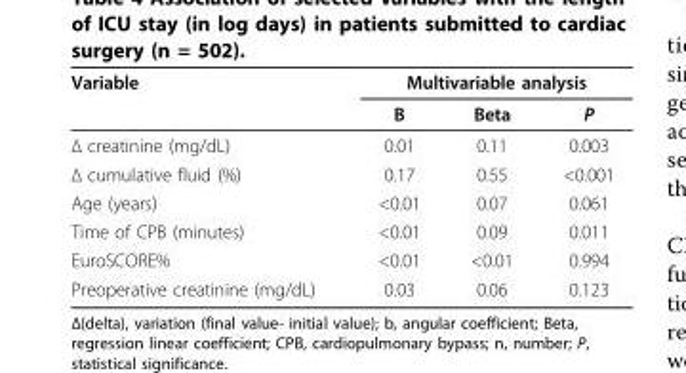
<table><thead><tr><td rowspan="2">Variable</td><td colspan="3">Multivariable analysis</td></tr><tr><td>B</td><td>Beta</td><td>P</td></tr></thead><tbody><tr><td>Δ creatinine (mg/dL)</td><td>0.01</td><td>0.11</td><td>0.003</td></tr><tr><td>Δ cumulative fluid (%)</td><td>0.17</td><td>0.55</td><td>&lt;0.001</td></tr><tr><td>Age (years)</td><td>&lt;0.01</td><td>0.07</td><td>0.061</td></tr><tr><td>Time of CPB (minutes)</td><td>&lt;0.01</td><td>0.09</td><td>0.011</td></tr><tr><td>EuroSCORE%</td><td>&lt;0.01</td><td>&lt;0.01</td><td>0.994</td></tr><tr><td>Preoperative creatinine (mg/dL)</td><td>0.03</td><td>0.06</td><td>0.123</td></tr></tbody></table>